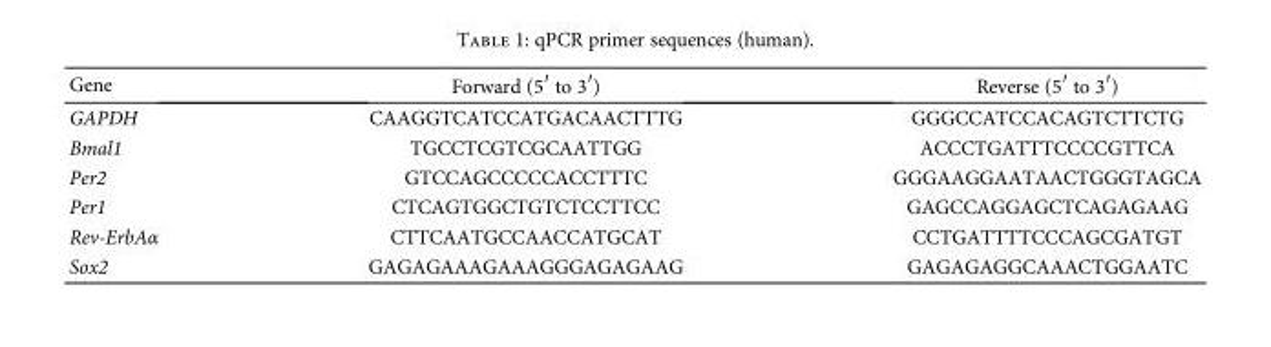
<table><thead><tr><td>Gene</td><td>Forward (5′ to 3′)</td><td>Reverse (5′ to 3′)</td></tr></thead><tbody><tr><td>GAPDH</td><td>CAAGGTCATCCATGACAACTTTG</td><td>GGGCCATCCACAGTCTTCTG</td></tr><tr><td>Bmal1</td><td>TGCCTCGTCGCAATTGG</td><td>ACCCTGATTTCCCCGTTCA</td></tr><tr><td>Per2</td><td>GTCCAGCCCCCACCTTTC</td><td>GGGAAGGAATAACTGGGTAGCA</td></tr><tr><td>Per1</td><td>CTCAGTGGCTGTCTCCTTCC</td><td>GAGCCAGGAGCTCAGAGAAG</td></tr><tr><td>Rev-ErbAα</td><td>CTTCAATGCCAACCATGCAT</td><td>CCTGATTTTCCCAGCGATGT</td></tr><tr><td>Sox2</td><td>GAGAGAAAGAAAGGGAGAGAAG</td><td>GAGAGAGGCAAACTGGAATC</td></tr></tbody></table>